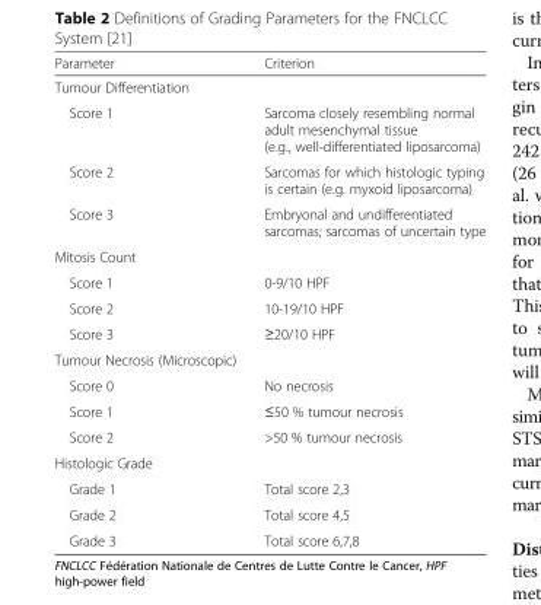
<table><thead><tr><td>Parameter</td><td>Criterion</td></tr></thead><tbody><tr><td colspan="2">Tumour Differentiation</td></tr><tr><td>Score 1</td><td>Sarcoma closely resembling normal adult mesenchymal tissue (e.g., well-differentiated liposarcoma)</td></tr><tr><td>Score 2</td><td>Sarcomas for which histologic typing is certain (e.g. myxoid liposarcoma)</td></tr><tr><td>Score 3</td><td>Embryonal and undifferentiated sarcomas; sarcomas of uncertain type</td></tr><tr><td colspan="2">Mitosis Count</td></tr><tr><td>Score 1</td><td>0-9/10 HPF</td></tr><tr><td>Score 2</td><td>10-19/10 HPF</td></tr><tr><td>Score 3</td><td>≥20/10 HPF</td></tr><tr><td colspan="2">Tumour Necrosis (Microscopic)</td></tr><tr><td>Score 0</td><td>No necrosis</td></tr><tr><td>Score 1</td><td>≤50 % tumour necrosis</td></tr><tr><td>Score 2</td><td>&gt;50 % tumour necrosis</td></tr><tr><td colspan="2">Histologic Grade</td></tr><tr><td>Grade 1</td><td>Total score 2,3</td></tr><tr><td>Grade 2</td><td>Total score 4,5</td></tr><tr><td>Grade 3</td><td>Total score 6,7,8</td></tr></tbody></table>